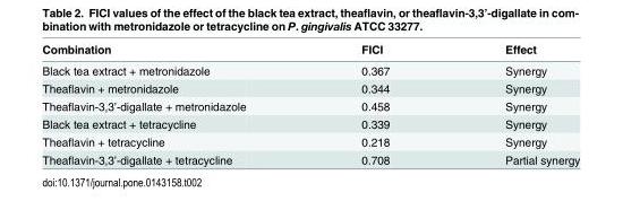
<table><thead><tr><td>Combination</td><td>FICI</td><td>Effect</td></tr></thead><tbody><tr><td>Black tea extract + metronidazole</td><td>0.367</td><td>Synergy</td></tr><tr><td>Theaflavin + metronidazole</td><td>0.344</td><td>Synergy</td></tr><tr><td>Theaflavin-3,3’-digallate + metronidazole</td><td>0.458</td><td>Synergy</td></tr><tr><td>Black tea extract + tetracycline</td><td>0.339</td><td>Synergy</td></tr><tr><td>Theaflavin + tetracycline</td><td>0.218</td><td>Synergy</td></tr><tr><td>Theaflavin-3,3’-digallate + tetracycline</td><td>0.708</td><td>Partial synergy</td></tr></tbody></table>